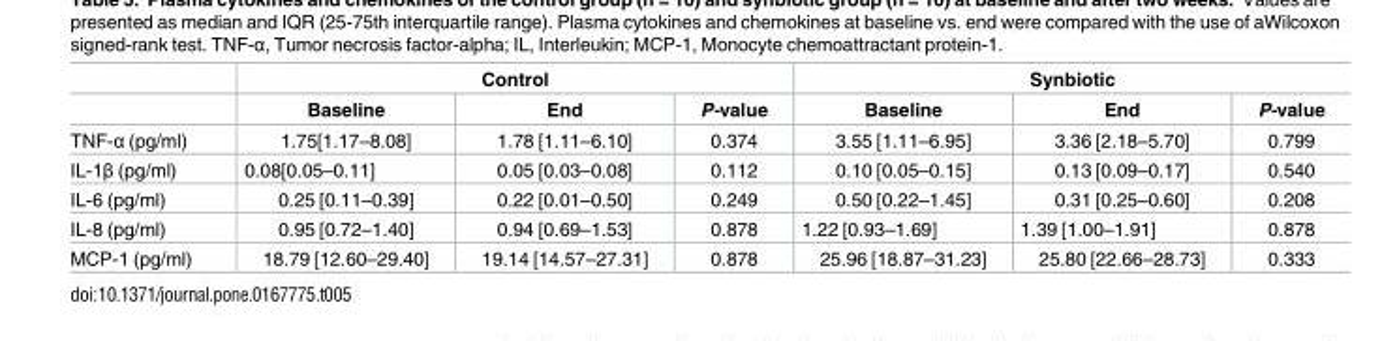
<table><thead><tr><td rowspan="2"></td><td colspan="3">Control</td><td colspan="3">Synbiotic</td></tr><tr><td>Baseline</td><td>End</td><td>P-value</td><td>Baseline</td><td>End</td><td>P-value</td></tr></thead><tbody><tr><td>TNF-α (pg/ml)</td><td>1.75[1.17–8.08]</td><td>1.78 [1.11–6.10]</td><td>0.374</td><td>3.55 [1.11–6.95]</td><td>3.36 [2.18–5.70]</td><td>0.799</td></tr><tr><td>IL-1β (pg/ml)</td><td>0.08[0.05–0.11]</td><td>0.05 [0.03–0.08]</td><td>0.112</td><td>0.10 [0.05–0.15]</td><td>0.13 [0.09–0.17]</td><td>0.540</td></tr><tr><td>IL-6 (pg/ml)</td><td>0.25 [0.11–0.39]</td><td>0.22 [0.01–0.50]</td><td>0.249</td><td>0.50 [0.22–1.45]</td><td>0.31 [0.25–0.60]</td><td>0.208</td></tr><tr><td>IL-8 (pg/ml)</td><td>0.95 [0.72–1.40]</td><td>0.94 [0.69–1.53]</td><td>0.878</td><td>1.22 [0.93–1.69]</td><td>1.39 [1.00–1.91]</td><td>0.878</td></tr><tr><td>MCP-1 (pg/ml)</td><td>18.79 [12.60–29.40]</td><td>19.14 [14.57–27.31]</td><td>0.878</td><td>25.96 [18.87–31.23]</td><td>25.80 [22.66–28.73]</td><td>0.333</td></tr></tbody></table>